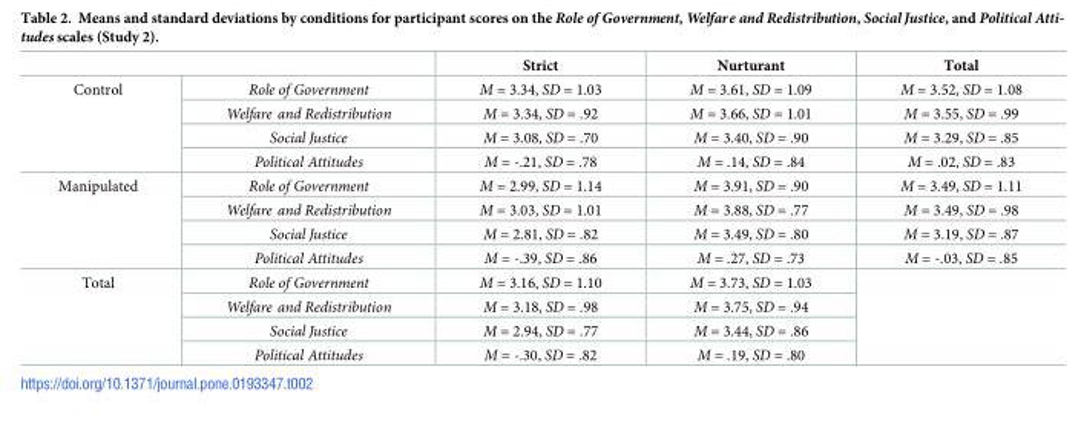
<table><thead><tr><td></td><td></td><td>Strict</td><td>Nurturant</td><td>Total</td></tr></thead><tbody><tr><td rowspan="4">Control</td><td>Role of Government</td><td>M = 3.34, SD = 1.03</td><td>M = 3.61, SD = 1.09</td><td>M = 3.52, SD = 1.08</td></tr><tr><td>Welfare and Redistribution</td><td>M = 3.34, SD = .92</td><td>M = 3.66, SD = 1.01</td><td>M = 3.55, SD = .99</td></tr><tr><td>Social Justice</td><td>M = 3.08, SD = .70</td><td>M = 3.40, SD = .90</td><td>M = 3.29, SD = .85</td></tr><tr><td>Political Attitudes</td><td>M = -.21, SD = .78</td><td>M = .14, SD = .84</td><td>M = .02, SD = .83</td></tr><tr><td rowspan="4">Manipulated</td><td>Role of Government</td><td>M = 2.99, SD = 1.14</td><td>M = 3.91, SD = .90</td><td>M = 3.49, SD = 1.11</td></tr><tr><td>Welfare and Redistribution</td><td>M = 3.03, SD = 1.01</td><td>M = 3.88, SD = .77</td><td>M = 3.49, SD = .98</td></tr><tr><td>Social Justice</td><td>M = 2.81, SD = .82</td><td>M = 3.49, SD = .80</td><td>M = 3.19, SD = .87</td></tr><tr><td>Political Attitudes</td><td>M = -.39, SD = .86</td><td>M = .27, SD = .73</td><td>M = -.03, SD = .85</td></tr><tr><td rowspan="4">Total</td><td>Role of Government</td><td>M = 3.16, SD = 1.10</td><td>M = 3.73, SD = 1.03</td><td rowspan="4"></td></tr><tr><td>Welfare and Redistribution</td><td>M = 3.18, SD = .98</td><td>M = 3.75, SD = .94</td></tr><tr><td>Social Justice</td><td>M = 2.94, SD = .77</td><td>M = 3.44, SD = .86</td></tr><tr><td>Political Attitudes</td><td>M = -.30, SD = .82</td><td>M = .19, SD = .80</td></tr></tbody></table>